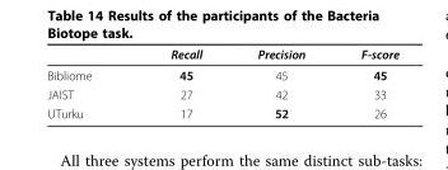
<table><thead><tr><td></td><td>Recall</td><td>Precision</td><td>F-score</td></tr></thead><tbody><tr><td>Bibliome</td><td>45</td><td>45</td><td>45</td></tr><tr><td>JAIST</td><td>27</td><td>42</td><td>33</td></tr><tr><td>UTurku</td><td>17</td><td>52</td><td>26</td></tr></tbody></table>